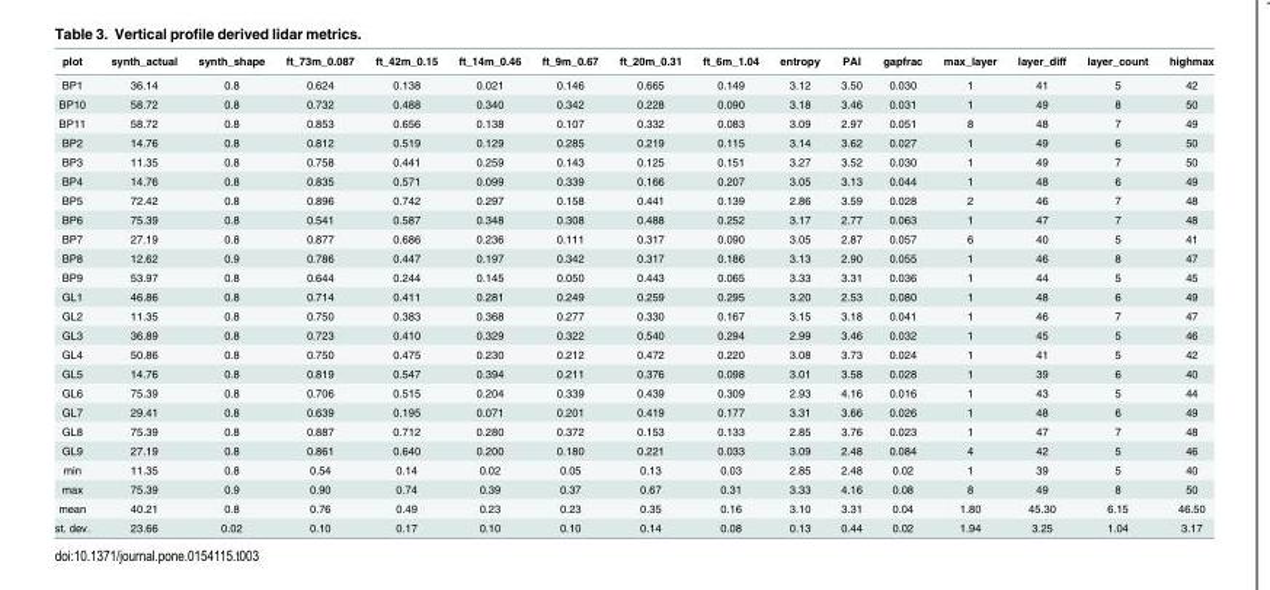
<table><thead><tr><td>plot</td><td>synth_actual</td><td>synth_shape</td><td>ft_73m_0.087</td><td>ft_42m_0.15</td><td>ft_14m_0.46</td><td>ft_9m_0.67</td><td>ft_20m_0.31</td><td>ft_6m_1.04</td><td>entropy</td><td>PAI</td><td>gapfrac</td><td>max_layer</td><td>layer_diff</td><td>layer_count</td><td>highmax</td></tr></thead><tbody><tr><td>BP1</td><td>36.14</td><td>0.8</td><td>0.624</td><td>0.138</td><td>0.021</td><td>0.146</td><td>0.665</td><td>0.149</td><td>3.12</td><td>3.50</td><td>0.030</td><td>1</td><td>41</td><td>5</td><td>42</td></tr><tr><td>BP10</td><td>58.72</td><td>0.8</td><td>0.732</td><td>0.488</td><td>0.340</td><td>0.342</td><td>0.228</td><td>0.090</td><td>3.18</td><td>3.46</td><td>0.031</td><td>1</td><td>49</td><td>8</td><td>50</td></tr><tr><td>BP11</td><td>58.72</td><td>0.8</td><td>0.853</td><td>0.656</td><td>0.138</td><td>0.107</td><td>0.332</td><td>0.083</td><td>3.09</td><td>2.97</td><td>0.051</td><td>8</td><td>48</td><td>7</td><td>49</td></tr><tr><td>BP2</td><td>14.76</td><td>0.8</td><td>0.812</td><td>0.519</td><td>0.129</td><td>0.285</td><td>0.219</td><td>0.115</td><td>3.14</td><td>3.62</td><td>0.027</td><td>1</td><td>49</td><td>6</td><td>50</td></tr><tr><td>BP3</td><td>11.35</td><td>0.8</td><td>0.758</td><td>0.441</td><td>0.259</td><td>0.143</td><td>0.125</td><td>0.151</td><td>3.27</td><td>3.52</td><td>0.030</td><td>1</td><td>49</td><td>7</td><td>50</td></tr><tr><td>BP4</td><td>14.76</td><td>0.8</td><td>0.835</td><td>0.571</td><td>0.099</td><td>0.339</td><td>0.166</td><td>0.207</td><td>3.05</td><td>3.13</td><td>0.044</td><td>1</td><td>48</td><td>6</td><td>49</td></tr><tr><td>BP5</td><td>72.42</td><td>0.8</td><td>0.896</td><td>0.742</td><td>0.297</td><td>0.158</td><td>0.441</td><td>0.139</td><td>2.86</td><td>3.59</td><td>0.028</td><td>2</td><td>46</td><td>7</td><td>48</td></tr><tr><td>BP6</td><td>75.39</td><td>0.8</td><td>0.541</td><td>0.587</td><td>0.348</td><td>0.308</td><td>0.488</td><td>0.252</td><td>3.17</td><td>2.77</td><td>0.063</td><td>1</td><td>47</td><td>7</td><td>48</td></tr><tr><td>BP7</td><td>27.19</td><td>0.8</td><td>0.877</td><td>0.686</td><td>0.236</td><td>0.111</td><td>0.317</td><td>0.090</td><td>3.05</td><td>2.87</td><td>0.057</td><td>6</td><td>40</td><td>5</td><td>41</td></tr><tr><td>BP8</td><td>12.62</td><td>0.9</td><td>0.786</td><td>0.447</td><td>0.197</td><td>0.342</td><td>0.317</td><td>0.186</td><td>3.13</td><td>2.90</td><td>0.055</td><td>1</td><td>46</td><td>8</td><td>47</td></tr><tr><td>BP9</td><td>53.97</td><td>0.8</td><td>0.644</td><td>0.244</td><td>0.145</td><td>0.050</td><td>0.443</td><td>0.065</td><td>3.33</td><td>3.31</td><td>0.036</td><td>1</td><td>44</td><td>5</td><td>45</td></tr><tr><td>GL1</td><td>46.86</td><td>0.8</td><td>0.714</td><td>0.411</td><td>0.281</td><td>0.249</td><td>0.259</td><td>0.295</td><td>3.20</td><td>2.53</td><td>0.080</td><td>1</td><td>48</td><td>6</td><td>49</td></tr><tr><td>GL2</td><td>11.35</td><td>0.8</td><td>0.750</td><td>0.383</td><td>0.368</td><td>0.277</td><td>0.330</td><td>0.167</td><td>3.15</td><td>3.18</td><td>0.041</td><td>1</td><td>46</td><td>7</td><td>47</td></tr><tr><td>GL3</td><td>36.89</td><td>0.8</td><td>0.723</td><td>0.410</td><td>0.329</td><td>0.322</td><td>0.540</td><td>0.294</td><td>2.99</td><td>3.46</td><td>0.032</td><td>1</td><td>45</td><td>5</td><td>46</td></tr><tr><td>GL4</td><td>50.86</td><td>0.8</td><td>0.750</td><td>0.475</td><td>0.230</td><td>0.212</td><td>0.472</td><td>0.220</td><td>3.08</td><td>3.73</td><td>0.024</td><td>1</td><td>41</td><td>5</td><td>42</td></tr><tr><td>GL5</td><td>14.76</td><td>0.8</td><td>0.819</td><td>0.547</td><td>0.394</td><td>0.211</td><td>0.376</td><td>0.098</td><td>3.01</td><td>3.58</td><td>0.028</td><td>1</td><td>39</td><td>6</td><td>40</td></tr><tr><td>GL6</td><td>75.39</td><td>0.8</td><td>0.706</td><td>0.515</td><td>0.204</td><td>0.339</td><td>0.439</td><td>0.309</td><td>2.93</td><td>4.16</td><td>0.016</td><td>1</td><td>43</td><td>5</td><td>44</td></tr><tr><td>GL7</td><td>29.41</td><td>0.8</td><td>0.639</td><td>0.195</td><td>0.071</td><td>0.201</td><td>0.419</td><td>0.177</td><td>3.31</td><td>3.66</td><td>0.026</td><td>1</td><td>48</td><td>6</td><td>49</td></tr><tr><td>GL8</td><td>75.39</td><td>0.8</td><td>0.887</td><td>0.712</td><td>0.280</td><td>0.372</td><td>0.153</td><td>0.133</td><td>2.85</td><td>3.76</td><td>0.023</td><td>1</td><td>47</td><td>7</td><td>48</td></tr><tr><td>GL9</td><td>27.19</td><td>0.8</td><td>0.861</td><td>0.640</td><td>0.200</td><td>0.180</td><td>0.221</td><td>0.033</td><td>3.09</td><td>2.48</td><td>0.084</td><td>4</td><td>42</td><td>5</td><td>46</td></tr><tr><td>min</td><td>11.35</td><td>0.8</td><td>0.54</td><td>0.14</td><td>0.02</td><td>0.05</td><td>0.13</td><td>0.03</td><td>2.85</td><td>2.48</td><td>0.02</td><td>1</td><td>39</td><td>5</td><td>40</td></tr><tr><td>max</td><td>75.39</td><td>0.9</td><td>0.90</td><td>0.74</td><td>0.39</td><td>0.37</td><td>0.67</td><td>0.31</td><td>3.33</td><td>4.16</td><td>0.08</td><td>8</td><td>49</td><td>8</td><td>50</td></tr><tr><td>mean</td><td>40.21</td><td>0.8</td><td>0.76</td><td>0.49</td><td>0.23</td><td>0.23</td><td>0.35</td><td>0.16</td><td>3.10</td><td>3.31</td><td>0.04</td><td>1.80</td><td>45.30</td><td>6.15</td><td>46.50</td></tr><tr><td>st. dev.</td><td>23.66</td><td>0.02</td><td>0.10</td><td>0.17</td><td>0.10</td><td>0.10</td><td>0.14</td><td>0.08</td><td>0.13</td><td>0.44</td><td>0.02</td><td>1.94</td><td>3.25</td><td>1.04</td><td>3.17</td></tr></tbody></table>